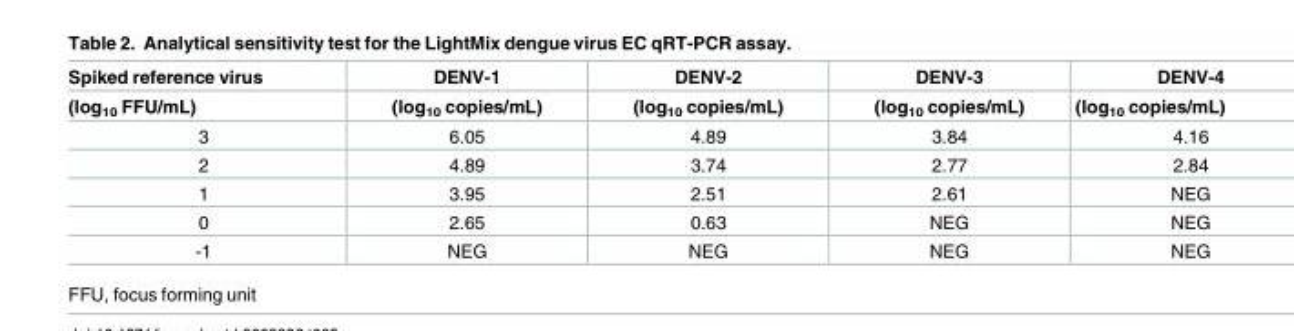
<table><thead><tr><td rowspan="2">Spiked reference virus (log<sub>10</sub> FFU/mL)</td><td rowspan="2">DENV-1 (log<sub>10</sub> copies/mL)</td><td rowspan="2">DENV-2 (log<sub>10</sub> copies/mL)</td><td rowspan="2">DENV-3 (log<sub>10</sub> copies/mL)</td><td rowspan="2">DENV-4 (log<sub>10</sub> copies/mL)</td></tr><tr></tr></thead><tbody><tr><td>3</td><td>6.05</td><td>4.89</td><td>3.84</td><td>4.16</td></tr><tr><td>2</td><td>4.89</td><td>3.74</td><td>2.77</td><td>2.84</td></tr><tr><td>1</td><td>3.95</td><td>2.51</td><td>2.61</td><td>NEG</td></tr><tr><td>0</td><td>2.65</td><td>0.63</td><td>NEG</td><td>NEG</td></tr><tr><td>-1</td><td>NEG</td><td>NEG</td><td>NEG</td><td>NEG</td></tr></tbody></table>